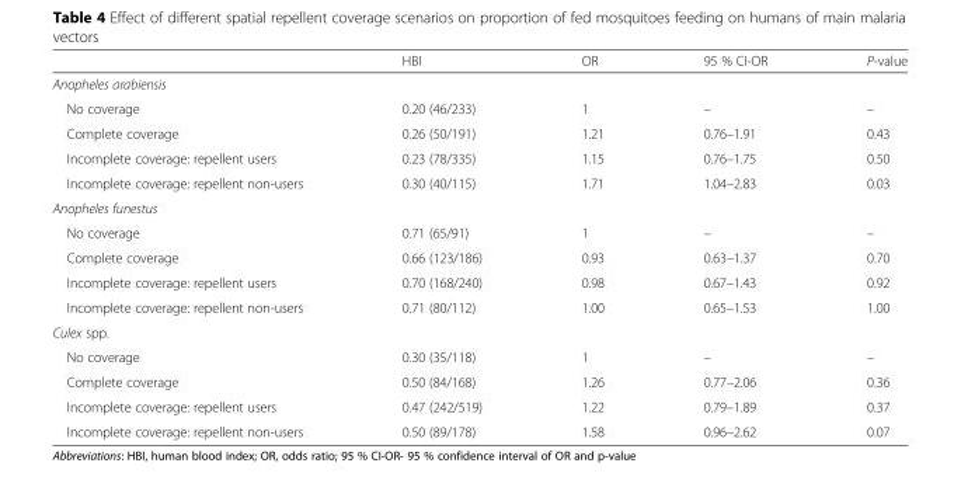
<table><thead><tr><td></td><td>HBI</td><td>OR</td><td>95 % CI-OR</td><td>P-value</td></tr></thead><tbody><tr><td colspan="5">Anopheles arabiensis</td></tr><tr><td>No coverage</td><td>0.20 (46/233)</td><td>1</td><td>–</td><td>–</td></tr><tr><td>Complete coverage</td><td>0.26 (50/191)</td><td>1.21</td><td>0.76–1.91</td><td>0.43</td></tr><tr><td>Incomplete coverage: repellent users</td><td>0.23 (78/335)</td><td>1.15</td><td>0.76–1.75</td><td>0.50</td></tr><tr><td>Incomplete coverage: repellent non-users</td><td>0.30 (40/115)</td><td>1.71</td><td>1.04–2.83</td><td>0.03</td></tr><tr><td colspan="5">Anopheles funestus</td></tr><tr><td>No coverage</td><td>0.71 (65/91)</td><td>1</td><td>–</td><td>–</td></tr><tr><td>Complete coverage</td><td>0.66 (123/186)</td><td>0.93</td><td>0.63–1.37</td><td>0.70</td></tr><tr><td>Incomplete coverage: repellent users</td><td>0.70 (168/240)</td><td>0.98</td><td>0.67–1.43</td><td>0.92</td></tr><tr><td>Incomplete coverage: repellent non-users</td><td>0.71 (80/112)</td><td>1.00</td><td>0.65–1.53</td><td>1.00</td></tr><tr><td colspan="5">Culex spp.</td></tr><tr><td>No coverage</td><td>0.30 (35/118)</td><td>1</td><td>–</td><td>–</td></tr><tr><td>Complete coverage</td><td>0.50 (84/168)</td><td>1.26</td><td>0.77–2.06</td><td>0.36</td></tr><tr><td>Incomplete coverage: repellent users</td><td>0.47 (242/519)</td><td>1.22</td><td>0.79–1.89</td><td>0.37</td></tr><tr><td>Incomplete coverage: repellent non-users</td><td>0.50 (89/178)</td><td>1.58</td><td>0.96–2.62</td><td>0.07</td></tr></tbody></table>